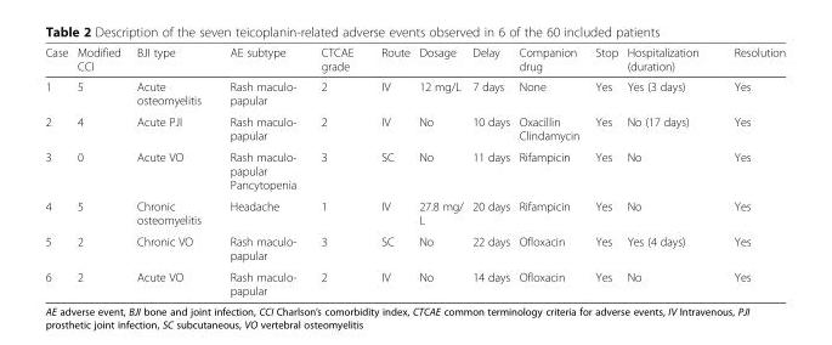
<table><thead><tr><td>Case</td><td>Modified CCI</td><td>BJI type</td><td>AE subtype</td><td>CTCAE grade</td><td>Route</td><td>Dosage</td><td>Delay</td><td>Companion drug</td><td>Stop</td><td>Hospitalization (duration)</td><td>Resolution</td></tr></thead><tbody><tr><td>1</td><td>5</td><td>Acute osteomyelitis</td><td>Rash maculo- papular</td><td>2</td><td>IV</td><td>12 mg/L</td><td>7 days</td><td>None</td><td>Yes</td><td>Yes (3 days)</td><td>Yes</td></tr><tr><td>2</td><td>4</td><td>Acute PJI</td><td>Rash maculo- papular</td><td>2</td><td>IV</td><td>No</td><td>10 days</td><td>Oxacillin Clindamycin</td><td>Yes</td><td>No (17 days)</td><td>Yes</td></tr><tr><td>3</td><td>0</td><td>Acute VO</td><td>Rash maculo- papular Pancytopenia</td><td>3</td><td>SC</td><td>No</td><td>11 days</td><td>Rifampicin</td><td>Yes</td><td>No</td><td>Yes</td></tr><tr><td>4</td><td>5</td><td>Chronic osteomyelitis</td><td>Headache</td><td>1</td><td>IV</td><td>27.8 mg/ L</td><td>20 days</td><td>Rifampicin</td><td>Yes</td><td>No</td><td>Yes</td></tr><tr><td>5</td><td>2</td><td>Chronic VO</td><td>Rash maculo- papular</td><td>3</td><td>SC</td><td>No</td><td>22 days</td><td>Ofloxacin</td><td>Yes</td><td>Yes (4 days)</td><td>Yes</td></tr><tr><td>6</td><td>2</td><td>Acute VO</td><td>Rash maculo- papular</td><td>2</td><td>IV</td><td>No</td><td>14 days</td><td>Ofloxacin</td><td>Yes</td><td>No</td><td>Yes</td></tr></tbody></table>